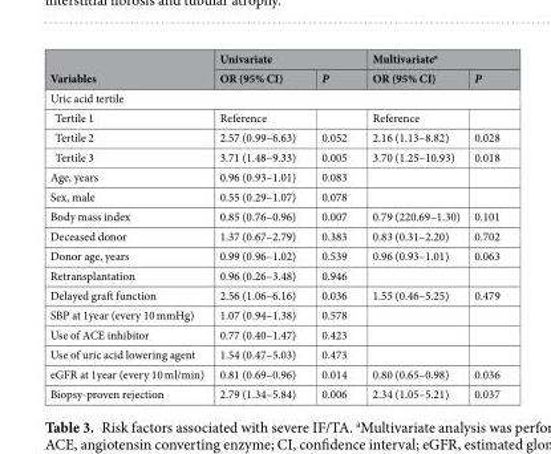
<table><thead><tr><td rowspan="2">Variables</td><td colspan="2">Univariate</td><td colspan="2">Multivariate<sup>a</sup></td></tr><tr><td>OR (95% CI)</td><td>P</td><td>OR (95% CI)</td><td>P</td></tr></thead><tbody><tr><td colspan="5">Uric acid tertile</td></tr><tr><td>Tertile 1</td><td>Reference</td><td></td><td>Reference</td><td></td></tr><tr><td>Tertile 2</td><td>2.57 (0.99–6.63)</td><td>0.052</td><td>2.16 (1.13–8.82)</td><td>0.028</td></tr><tr><td>Tertile 3</td><td>3.71 (1.48–9.33)</td><td>0.005</td><td>3.70 (1.25–10.93)</td><td>0.018</td></tr><tr><td>Age, years</td><td>0.96 (0.93–1.01)</td><td>0.083</td><td></td><td></td></tr><tr><td>Sex, male</td><td>0.55 (0.29–1.07)</td><td>0.078</td><td></td><td></td></tr><tr><td>Body mass index</td><td>0.85 (0.76–0.96)</td><td>0.007</td><td>0.79 (220.69–1.30)</td><td>0.101</td></tr><tr><td>Deceased donor</td><td>1.37 (0.67–2.79)</td><td>0.383</td><td>0.83 (0.31–2.20)</td><td>0.702</td></tr><tr><td>Donor age, years</td><td>0.99 (0.96–1.02)</td><td>0.539</td><td>0.96 (0.93–1.01)</td><td>0.063</td></tr><tr><td>Retransplantation</td><td>0.96 (0.26–3.48)</td><td>0.946</td><td></td><td></td></tr><tr><td>Delayed graft function</td><td>2.56 (1.06–6.16)</td><td>0.036</td><td>1.55 (0.46–5.25)</td><td>0.479</td></tr><tr><td>SBP at 1year (every 10 mmHg)</td><td>1.07 (0.94–1.38)</td><td>0.578</td><td></td><td></td></tr><tr><td>Use of ACE inhibitor</td><td>0.77 (0.40–1.47)</td><td>0.423</td><td></td><td></td></tr><tr><td>Use of uric acid lowering agent</td><td>1.54 (0.47–5.03)</td><td>0.473</td><td></td><td></td></tr><tr><td>eGFR at 1year (every 10 ml/min)</td><td>0.81 (0.69–0.96)</td><td>0.014</td><td>0.80 (0.65–0.98)</td><td>0.036</td></tr><tr><td>Biopsy-proven rejection</td><td>2.79 (1.34–5.84)</td><td>0.006</td><td>2.34 (1.05–5.21)</td><td>0.037</td></tr></tbody></table>